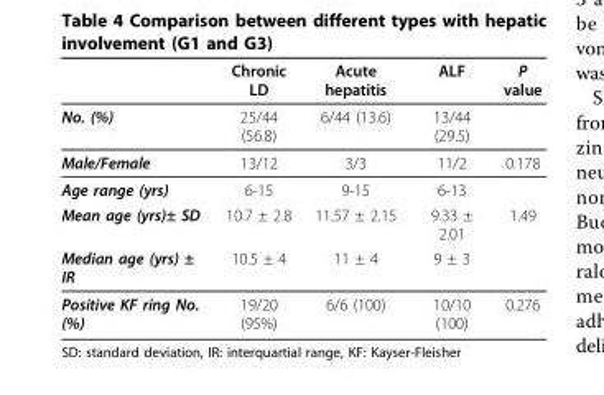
<table><thead><tr><td rowspan="2">No. (%)</td><td rowspan="2">Chronic LD 25/44 (56.8)</td><td rowspan="2">Acute hepatitis 6/44 (13.6)</td><td rowspan="2">ALF 13/44 (29.5)</td><td rowspan="2">P value</td></tr><tr></tr></thead><tbody><tr><td>Male/Female</td><td>13/12</td><td>3/3</td><td>11/2</td><td>0.178</td></tr><tr><td>Age range (yrs)</td><td>6-15</td><td>9-15</td><td>6-13</td><td></td></tr><tr><td>Mean age (yrs)± SD</td><td>10.7 ± 2.8</td><td>11.57 ± 2.15</td><td>9.33 ± 2.01</td><td>1.49</td></tr><tr><td>Median age (yrs) ± IR</td><td>10.5 ± 4</td><td>11 ± 4</td><td>9 ± 3</td><td></td></tr><tr><td>Positive KF ring No. (%)</td><td>19/20 (95%)</td><td>6/6 (100)</td><td>10/10 (100)</td><td>0.276</td></tr></tbody></table>